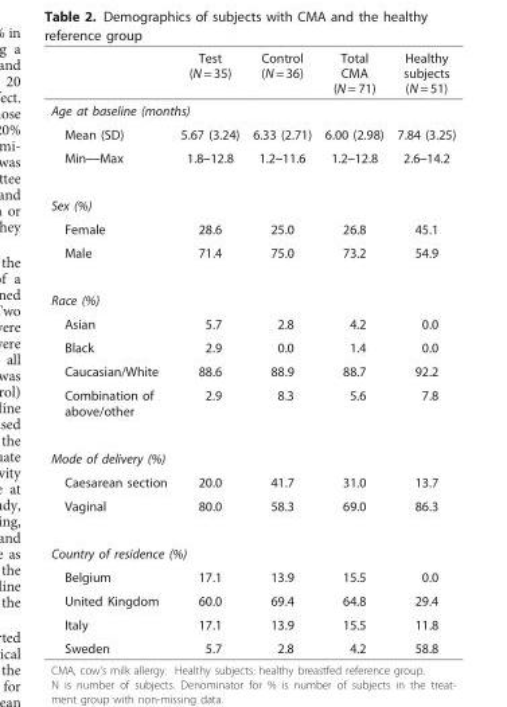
<table><thead><tr><td></td><td>Test (N = 35)</td><td>Control (N = 36)</td><td>Total CMA (N = 71)</td><td>Healthy subjects (N = 51)</td></tr></thead><tbody><tr><td colspan="5">Age at baseline (months)</td></tr><tr><td>Mean (SD)</td><td>5.67 (3.24)</td><td>6.33 (2.71)</td><td>6.00 (2.98)</td><td>7.84 (3.25)</td></tr><tr><td>Min—Max</td><td>1.8–12.8</td><td>1.2–11.6</td><td>1.2–12.8</td><td>2.6–14.2</td></tr><tr><td colspan="5">Sex (%)</td></tr><tr><td>Female</td><td>28.6</td><td>25.0</td><td>26.8</td><td>45.1</td></tr><tr><td>Male</td><td>71.4</td><td>75.0</td><td>73.2</td><td>54.9</td></tr><tr><td colspan="5">Race (%)</td></tr><tr><td>Asian</td><td>5.7</td><td>2.8</td><td>4.2</td><td>0.0</td></tr><tr><td>Black</td><td>2.9</td><td>0.0</td><td>1.4</td><td>0.0</td></tr><tr><td>Caucasian/White</td><td>88.6</td><td>88.9</td><td>88.7</td><td>92.2</td></tr><tr><td>Combination of above/other</td><td>2.9</td><td>8.3</td><td>5.6</td><td>7.8</td></tr><tr><td colspan="5">Mode of delivery (%)</td></tr><tr><td>Caesarean section</td><td>20.0</td><td>41.7</td><td>31.0</td><td>13.7</td></tr><tr><td>Vaginal</td><td>80.0</td><td>58.3</td><td>69.0</td><td>86.3</td></tr><tr><td colspan="5">Country of residence (%)</td></tr><tr><td>Belgium</td><td>17.1</td><td>13.9</td><td>15.5</td><td>0.0</td></tr><tr><td>United Kingdom</td><td>60.0</td><td>69.4</td><td>64.8</td><td>29.4</td></tr><tr><td>Italy</td><td>17.1</td><td>13.9</td><td>15.5</td><td>11.8</td></tr><tr><td>Sweden</td><td>5.7</td><td>2.8</td><td>4.2</td><td>58.8</td></tr></tbody></table>